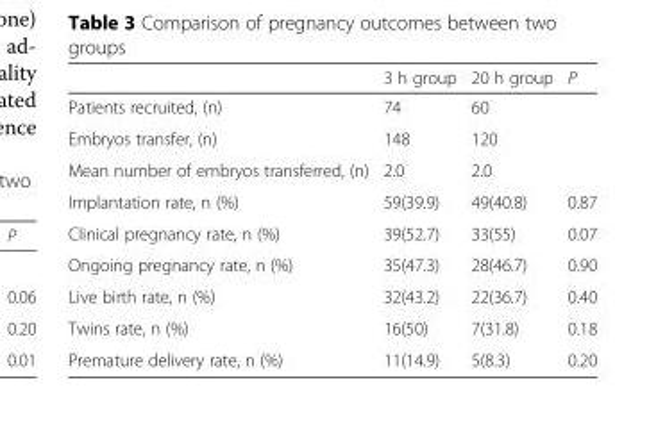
<table><thead><tr><td></td><td>3 h group</td><td>20 h group</td><td>P</td></tr></thead><tbody><tr><td>Patients recruited, (n)</td><td>74</td><td>60</td><td></td></tr><tr><td>Embryos transfer, (n)</td><td>148</td><td>120</td><td></td></tr><tr><td>Mean number of embryos transferred, (n)</td><td>2.0</td><td>2.0</td><td></td></tr><tr><td>Implantation rate, n (%)</td><td>59(39.9)</td><td>49(40.8)</td><td>0.87</td></tr><tr><td>Clinical pregnancy rate, n (%)</td><td>39(52.7)</td><td>33(55)</td><td>0.07</td></tr><tr><td>Ongoing pregnancy rate, n (%)</td><td>35(47.3)</td><td>28(46.7)</td><td>0.90</td></tr><tr><td>Live birth rate, n (%)</td><td>32(43.2)</td><td>22(36.7)</td><td>0.40</td></tr><tr><td>Twins rate, n (%)</td><td>16(50)</td><td>7(31.8)</td><td>0.18</td></tr><tr><td>Premature delivery rate, n (%)</td><td>11(14.9)</td><td>5(8.3)</td><td>0.20</td></tr></tbody></table>